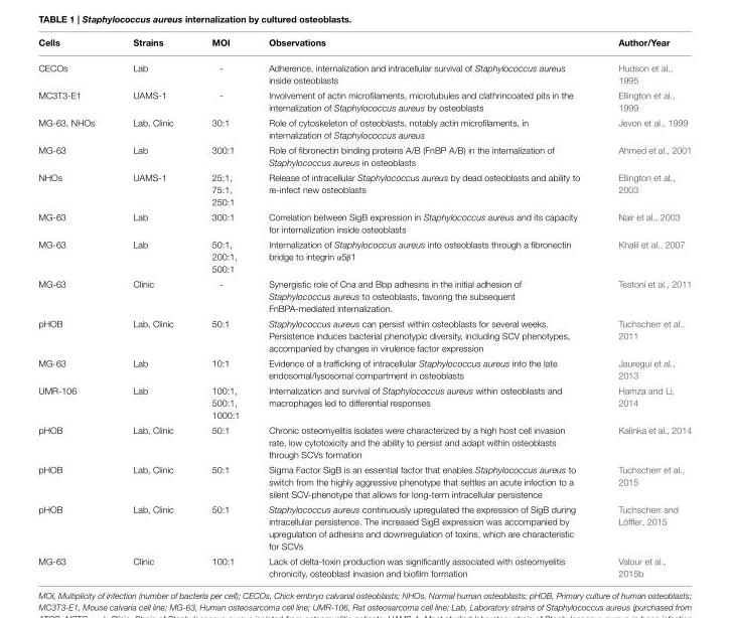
<table><thead><tr><td>Cells</td><td>Strains</td><td>MOI</td><td>Observations</td><td>Author/Year</td></tr></thead><tbody><tr><td>CECOs</td><td>Lab</td><td>-</td><td>Adherence, internalization and intracellular survival of Staphylococcus aureus inside osteoblasts</td><td>Hudson et al., 1995</td></tr><tr><td>MC3T3-E1</td><td>UAMS-1</td><td>-</td><td>Involvement of actin microfilaments, microtubules and clathrincoated pits in the internalization of Staphylococcus aureus by osteoblasts</td><td>Ellington et al., 1999</td></tr><tr><td>MG-63, NHOs</td><td>Lab, Clinic</td><td>30:1</td><td>Role of cytoskeleton of osteoblasts, notably actin microfilaments, in internalization of Staphylococcus aureus</td><td>Jevon et al., 1999</td></tr><tr><td>MG-63</td><td>Lab</td><td>300:1</td><td>Role of fibronectin binding proteins A/B (FnBP A/B) in the internalization of Staphylococcus aureus in osteoblasts</td><td>Ahmed et al., 2001</td></tr><tr><td>NHOs</td><td>UAMS-1</td><td>25:1, 75:1, 250:1</td><td>Release of intracellular Staphylococcus aureus by dead osteoblasts and ability to re-infect new osteoblasts</td><td>Ellington et al., 2003</td></tr><tr><td>MG-63</td><td>Lab</td><td>300:1</td><td>Correlation between SigB expression in Staphylococcus aureus and its capacity for internalization inside osteoblasts</td><td>Nair et al., 2003</td></tr><tr><td>MG-63</td><td>Lab</td><td>50:1, 200:1, 500:1</td><td>Internalization of Staphylococcus aureus into osteoblasts through a fibronectin bridge to integrin α5β1</td><td>Khalil et al., 2007</td></tr><tr><td>MG-63</td><td>Clinic</td><td>-</td><td>Synergistic role of Cna and Bbp adhesins in the initial adhesion of Staphylococcus aureus to osteoblasts, favoring the subsequent FnBPA-mediated internalization.</td><td>Testoni et al., 2011</td></tr><tr><td>pHOB</td><td>Lab, Clinic</td><td>50:1</td><td>Staphylococcus aureus can persist within osteoblasts for several weeks. Persistence induces bacterial phenotypic diversity, including SCV phenotypes, accompanied by changes in virulence factor expression</td><td>Tuchscherr et al., 2011</td></tr><tr><td>MG-63</td><td>Lab</td><td>10:1</td><td>Evidence of a trafficking of intracellular Staphylococcus aureus into the late endosomal/lysosomal compartment in osteoblasts</td><td>Jauregui et al., 2013</td></tr><tr><td>UMR-106</td><td>Lab</td><td>100:1, 500:1, 1000:1</td><td>Internalization and survival of Staphylococcus aureus within osteoblasts and macrophages led to differential responses</td><td>Hamza and Li, 2014</td></tr><tr><td>pHOB</td><td>Lab, Clinic</td><td>50:1</td><td>Chronic osteomyelitis isolates were characterized by a high host cell invasion rate, low cytotoxicity and the ability to persist and adapt within osteoblasts through SCVs formation</td><td>Kalinka et al., 2014</td></tr><tr><td>pHOB</td><td>Lab, Clinic</td><td>50:1</td><td>Sigma Factor SigB is an essential factor that enables Staphylococcus aureus to switch from the highly aggressive phenotype that settles an acute infection to a silent SCV-phenotype that allows for long-term intracellular persistence</td><td>Tuchscherr et al., 2015</td></tr><tr><td>pHOB</td><td>Lab, Clinic</td><td>50:1</td><td>Staphylococcus aureus continuously upregulated the expression of SigB during intracellular persistence. The increased SigB expression was accompanied by upregulation of adhesins and downregulation of toxins, which are characteristic for SCVs</td><td>Tuchscherr and Löffler, 2015</td></tr><tr><td>MG-63</td><td>Clinic</td><td>100:1</td><td>Lack of delta-toxin production was significantly associated with osteomyelitis chronicity, osteoblast invasion and biofilm formation</td><td>Valour et al., 2015b</td></tr></tbody></table>